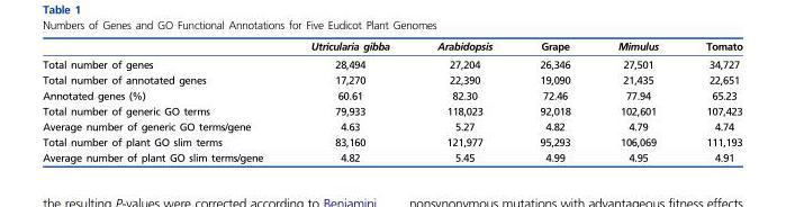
<table><thead><tr><td></td><td>Utricularia gibba</td><td>Arabidopsis</td><td>Grape</td><td>Mimulus</td><td>Tomato</td></tr></thead><tbody><tr><td>Total number of genes</td><td>28,494</td><td>27,204</td><td>26,346</td><td>27,501</td><td>34,727</td></tr><tr><td>Total number of annotated genes</td><td>17,270</td><td>22,390</td><td>19,090</td><td>21,435</td><td>22,651</td></tr><tr><td>Annotated genes (%)</td><td>60.61</td><td>82.30</td><td>72.46</td><td>77.94</td><td>65.23</td></tr><tr><td>Total number of generic GO terms</td><td>79,933</td><td>118,023</td><td>92,018</td><td>102,601</td><td>107,423</td></tr><tr><td>Average number of generic GO terms/gene</td><td>4.63</td><td>5.27</td><td>4.82</td><td>4.79</td><td>4.74</td></tr><tr><td>Total number of plant GO slim terms</td><td>83,160</td><td>121,977</td><td>95,293</td><td>106,069</td><td>111,193</td></tr><tr><td>Average number of plant GO slim terms/gene</td><td>4.82</td><td>5.45</td><td>4.99</td><td>4.95</td><td>4.91</td></tr></tbody></table>